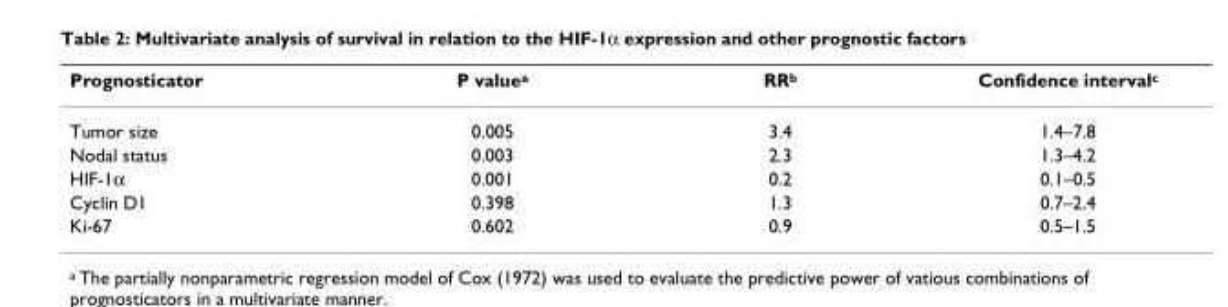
<table><thead><tr><td>Prognosticator</td><td>P valuea</td><td>RRb</td><td>Confidence intervalc</td></tr></thead><tbody><tr><td>Tumor size</td><td>0.005</td><td>3.4</td><td>1.4–7.8</td></tr><tr><td>Nodal status</td><td>0.003</td><td>2.3</td><td>1.3–4.2</td></tr><tr><td>HIF-1α</td><td>0.001</td><td>0.2</td><td>0.1–0.5</td></tr><tr><td>Cyclin D1</td><td>0.398</td><td>1.3</td><td>0.7–2.4</td></tr><tr><td>Ki-67</td><td>0.602</td><td>0.9</td><td>0.5–1.5</td></tr></tbody></table>